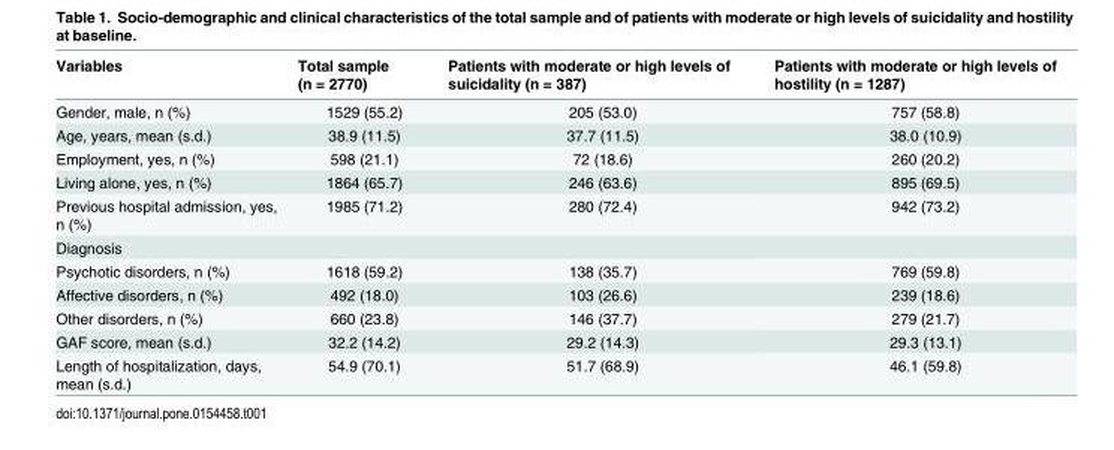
<table><thead><tr><td>Variables</td><td>Total sample (n = 2770)</td><td>Patients with moderate or high levels of suicidality (n = 387)</td><td>Patients with moderate or high levels of hostility (n = 1287)</td></tr></thead><tbody><tr><td>Gender, male, n (%)</td><td>1529 (55.2)</td><td>205 (53.0)</td><td>757 (58.8)</td></tr><tr><td>Age, years, mean (s.d.)</td><td>38.9 (11.5)</td><td>37.7 (11.5)</td><td>38.0 (10.9)</td></tr><tr><td>Employment, yes, n (%)</td><td>598 (21.1)</td><td>72 (18.6)</td><td>260 (20.2)</td></tr><tr><td>Living alone, yes, n (%)</td><td>1864 (65.7)</td><td>246 (63.6)</td><td>895 (69.5)</td></tr><tr><td>Previous hospital admission, yes, n (%)</td><td>1985 (71.2)</td><td>280 (72.4)</td><td>942 (73.2)</td></tr><tr><td colspan="4">Diagnosis</td></tr><tr><td>Psychotic disorders, n (%)</td><td>1618 (59.2)</td><td>138 (35.7)</td><td>769 (59.8)</td></tr><tr><td>Affective disorders, n (%)</td><td>492 (18.0)</td><td>103 (26.6)</td><td>239 (18.6)</td></tr><tr><td>Other disorders, n (%)</td><td>660 (23.8)</td><td>146 (37.7)</td><td>279 (21.7)</td></tr><tr><td>GAF score, mean (s.d.)</td><td>32.2 (14.2)</td><td>29.2 (14.3)</td><td>29.3 (13.1)</td></tr><tr><td>Length of hospitalization, days, mean (s.d.)</td><td>54.9 (70.1)</td><td>51.7 (68.9)</td><td>46.1 (59.8)</td></tr></tbody></table>